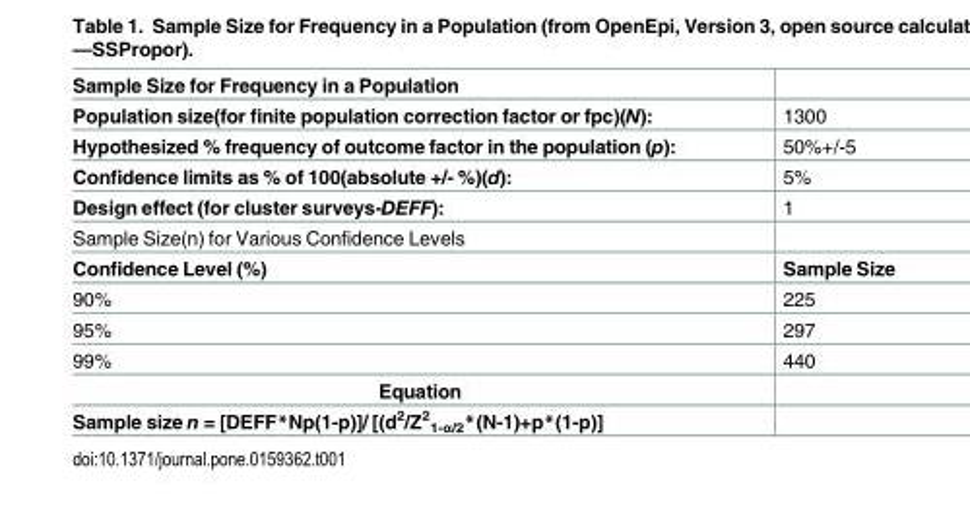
<table><tbody><tr><td colspan="2">Sample Size for Frequency in a Population</td></tr><tr><td>Population size(for finite population correction factor or fpc)(N):</td><td>1300</td></tr><tr><td>Hypothesized % frequency of outcome factor in the population (p):</td><td>50%+/-5</td></tr><tr><td>Confidence limits as % of 100(absolute +/- %)(d):</td><td>5%</td></tr><tr><td>Design effect (for cluster surveys-DEFF):</td><td>1</td></tr><tr><td colspan="2">Sample Size(n) for Various Confidence Levels</td></tr><tr><td>Confidence Level (%)</td><td>Sample Size</td></tr><tr><td>90%</td><td>225</td></tr><tr><td>95%</td><td>297</td></tr><tr><td>99%</td><td>440</td></tr><tr><td colspan="2">Equation</td></tr><tr><td>Sample size n = [DEFF*Np(1-p)]/ [(d<sup>2</sup>/Z<sup>2</sup> <sub>1-α/2</sub>*(N-1)+p*(1-p)]</td><td></td></tr></tbody></table>